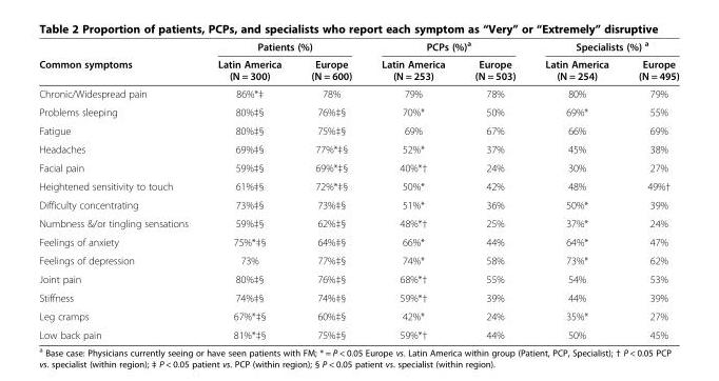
<table><thead><tr><td rowspan="2">Common symptoms</td><td colspan="2">Patients (%)</td><td colspan="2">PCPs (%)<sup>a</sup></td><td colspan="2">Specialists (%) <sup>a</sup></td></tr><tr><td>Latin America (N = 300)</td><td>Europe (N = 600)</td><td>Latin America (N = 253)</td><td>Europe (N = 503)</td><td>Latin America (N = 254)</td><td>Europe (N = 495)</td></tr></thead><tbody><tr><td>Chronic/Widespread pain</td><td>86%*‡</td><td>78%</td><td>79%</td><td>78%</td><td>80%</td><td>79%</td></tr><tr><td>Problems sleeping</td><td>80%‡§</td><td>76%‡§</td><td>70%*</td><td>50%</td><td>69%*</td><td>55%</td></tr><tr><td>Fatigue</td><td>80%‡§</td><td>75%‡§</td><td>69%</td><td>67%</td><td>66%</td><td>69%</td></tr><tr><td>Headaches</td><td>69%‡§</td><td>77%*‡§</td><td>52%*</td><td>37%</td><td>45%</td><td>38%</td></tr><tr><td>Facial pain</td><td>59%‡§</td><td>69%*‡§</td><td>40%*†</td><td>24%</td><td>30%</td><td>27%</td></tr><tr><td>Heightened sensitivity to touch</td><td>61%‡§</td><td>72%*‡§</td><td>50%*</td><td>42%</td><td>48%</td><td>49%†</td></tr><tr><td>Difficulty concentrating</td><td>73%‡§</td><td>73%‡§</td><td>51%*</td><td>36%</td><td>50%*</td><td>39%</td></tr><tr><td>Numbness &amp;/or tingling sensations</td><td>59%‡§</td><td>62%‡§</td><td>48%*†</td><td>25%</td><td>37%*</td><td>24%</td></tr><tr><td>Feelings of anxiety</td><td>75%*‡§</td><td>64%‡§</td><td>66%*</td><td>44%</td><td>64%*</td><td>47%</td></tr><tr><td>Feelings of depression</td><td>73%</td><td>77%‡§</td><td>74%*</td><td>58%</td><td>73%*</td><td>62%</td></tr><tr><td>Joint pain</td><td>80%‡§</td><td>76%‡§</td><td>68%*†</td><td>55%</td><td>54%</td><td>53%</td></tr><tr><td>Stiffness</td><td>74%‡§</td><td>74%‡§</td><td>59%*†</td><td>39%</td><td>44%</td><td>39%</td></tr><tr><td>Leg cramps</td><td>67%*‡§</td><td>60%‡§</td><td>42%*</td><td>24%</td><td>35%*</td><td>27%</td></tr><tr><td>Low back pain</td><td>81%*‡§</td><td>75%‡§</td><td>59%*†</td><td>44%</td><td>50%</td><td>45%</td></tr></tbody></table>